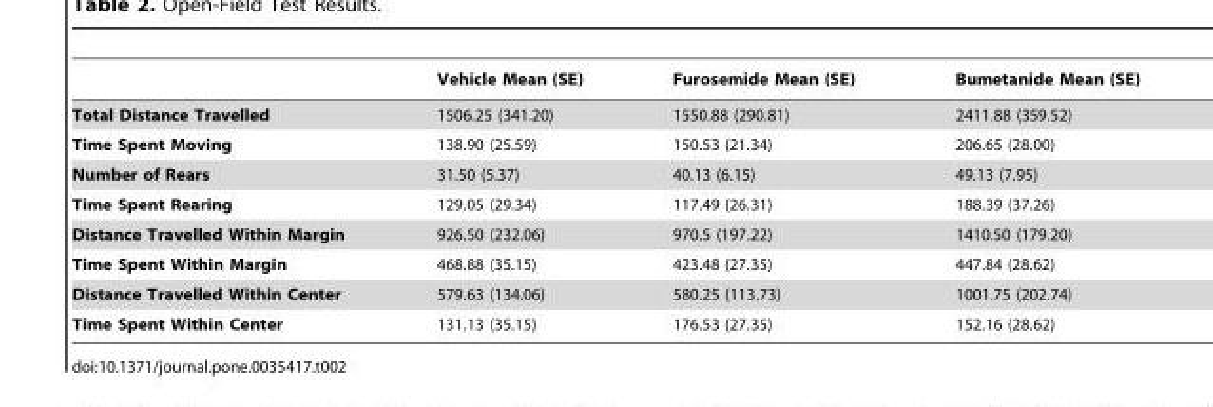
<table><thead><tr><td></td><td>Vehicle Mean (SE)</td><td>Furosemide Mean (SE)</td><td>Bumetanide Mean (SE)</td></tr></thead><tbody><tr><td>Total Distance Travelled</td><td>1506.25 (341.20)</td><td>1550.88 (290.81)</td><td>2411.88 (359.52)</td></tr><tr><td>Time Spent Moving</td><td>138.90 (25.59)</td><td>150.53 (21.34)</td><td>206.65 (28.00)</td></tr><tr><td>Number of Rears</td><td>31.50 (5.37)</td><td>40.13 (6.15)</td><td>49.13 (7.95)</td></tr><tr><td>Time Spent Rearing</td><td>129.05 (29.34)</td><td>117.49 (26.31)</td><td>188.39 (37.26)</td></tr><tr><td>Distance Travelled Within Margin</td><td>926.50 (232.06)</td><td>970.5 (197.22)</td><td>1410.50 (179.20)</td></tr><tr><td>Time Spent Within Margin</td><td>468.88 (35.15)</td><td>423.48 (27.35)</td><td>447.84 (28.62)</td></tr><tr><td>Distance Travelled Within Center</td><td>579.63 (134.06)</td><td>580.25 (113.73)</td><td>1001.75 (202.74)</td></tr><tr><td>Time Spent Within Center</td><td>131.13 (35.15)</td><td>176.53 (27.35)</td><td>152.16 (28.62)</td></tr></tbody></table>